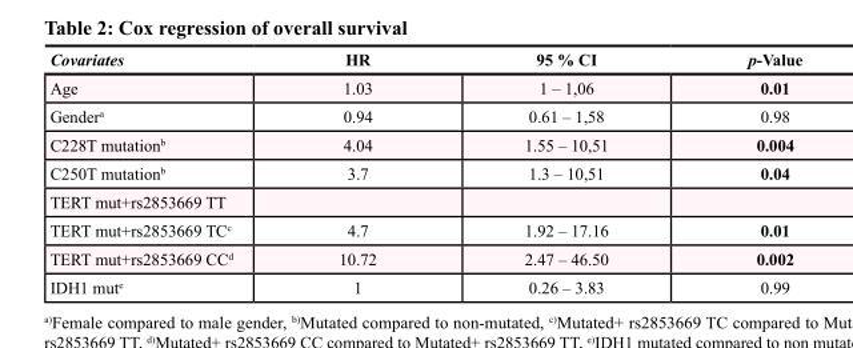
<table><thead><tr><td>Covariates</td><td>HR</td><td>95 % CI</td><td>p-Value</td></tr></thead><tbody><tr><td>Age</td><td>1.03</td><td>1 – 1,06</td><td>0.01</td></tr><tr><td>Gender<sup>a</sup></td><td>0.94</td><td>0.61 – 1,58</td><td>0.98</td></tr><tr><td>C228T mutation<sup>b</sup></td><td>4.04</td><td>1.55 – 10,51</td><td>0.004</td></tr><tr><td>C250T mutation<sup>b</sup></td><td>3.7</td><td>1.3 – 10,51</td><td>0.04</td></tr><tr><td colspan="4">TERT mut+rs2853669 TT</td></tr><tr><td>TERT mut+rs2853669 TC<sup>c</sup></td><td>4.7</td><td>1.92 – 17.16</td><td>0.01</td></tr><tr><td>TERT mut+rs2853669 CC<sup>d</sup></td><td>10.72</td><td>2.47 – 46.50</td><td>0.002</td></tr><tr><td>IDH1 mut<sup>e</sup></td><td>1</td><td>0.26 – 3.83</td><td>0.99</td></tr></tbody></table>